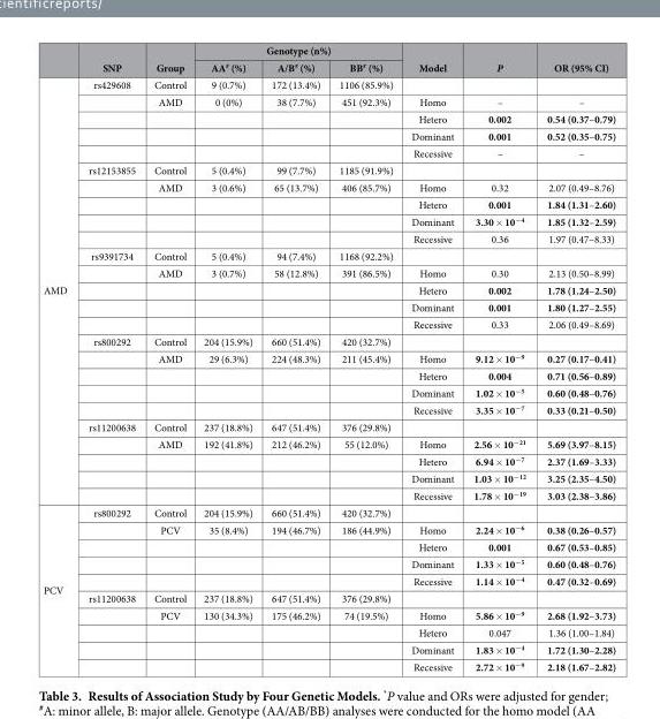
<table><thead><tr><td rowspan="2"></td><td rowspan="2">SNP</td><td rowspan="2">Group</td><td colspan="3">Genotype (n%)</td><td rowspan="2">Model</td><td rowspan="2">P</td><td rowspan="2">OR (95% CI)</td></tr><tr><td>AA# (%)</td><td>A/B# (%)</td><td>BB# (%)</td></tr></thead><tbody><tr><td rowspan="25">AMD</td><td>rs429608</td><td>Control</td><td>9 (0.7%)</td><td>172 (13.4%)</td><td>1106 (85.9%)</td><td></td><td></td><td></td></tr><tr><td></td><td>AMD</td><td>0 (0%)</td><td>38 (7.7%)</td><td>451 (92.3%)</td><td>Homo</td><td>–</td><td>–</td></tr><tr><td></td><td></td><td></td><td></td><td></td><td>Hetero</td><td>0.002</td><td>0.54 (0.37–0.79)</td></tr><tr><td></td><td></td><td></td><td></td><td></td><td>Dominant</td><td>0.001</td><td>0.52 (0.35–0.75)</td></tr><tr><td></td><td></td><td></td><td></td><td></td><td>Recessive</td><td>–</td><td>–</td></tr><tr><td>rs12153855</td><td>Control</td><td>5 (0.4%)</td><td>99 (7.7%)</td><td>1185 (91.9%)</td><td></td><td></td><td></td></tr><tr><td></td><td>AMD</td><td>3 (0.6%)</td><td>65 (13.7%)</td><td>406 (85.7%)</td><td>Homo</td><td>0.32</td><td>2.07 (0.49–8.76)</td></tr><tr><td></td><td></td><td></td><td></td><td></td><td>Hetero</td><td>0.001</td><td>1.84 (1.31–2.60)</td></tr><tr><td></td><td></td><td></td><td></td><td></td><td>Dominant</td><td>3.30 × 10<sup>−4</sup></td><td>1.85 (1.32–2.59)</td></tr><tr><td></td><td></td><td></td><td></td><td></td><td>Recessive</td><td>0.36</td><td>1.97 (0.47–8.33)</td></tr><tr><td>rs9391734</td><td>Control</td><td>5 (0.4%)</td><td>94 (7.4%)</td><td>1168 (92.2%)</td><td></td><td></td><td></td></tr><tr><td></td><td>AMD</td><td>3 (0.7%)</td><td>58 (12.8%)</td><td>391 (86.5%)</td><td>Homo</td><td>0.30</td><td>2.13 (0.50–8.99)</td></tr><tr><td></td><td></td><td></td><td></td><td></td><td>Hetero</td><td>0.002</td><td>1.78 (1.24–2.50)</td></tr><tr><td></td><td></td><td></td><td></td><td></td><td>Dominant</td><td>0.001</td><td>1.80 (1.27–2.55)</td></tr><tr><td></td><td></td><td></td><td></td><td></td><td>Recessive</td><td>0.33</td><td>2.06 (0.49–8.69)</td></tr><tr><td>rs800292</td><td>Control</td><td>204 (15.9%)</td><td>660 (51.4%)</td><td>420 (32.7%)</td><td></td><td></td><td></td></tr><tr><td></td><td>AMD</td><td>29 (6.3%)</td><td>224 (48.3%)</td><td>211 (45.4%)</td><td>Homo</td><td>9.12 × 10<sup>−9</sup></td><td>0.27 (0.17–0.41)</td></tr><tr><td></td><td></td><td></td><td></td><td></td><td>Hetero</td><td>0.004</td><td>0.71 (0.56–0.89)</td></tr><tr><td></td><td></td><td></td><td></td><td></td><td>Dominant</td><td>1.02 × 10<sup>−5</sup></td><td>0.60 (0.48–0.76)</td></tr><tr><td></td><td></td><td></td><td></td><td></td><td>Recessive</td><td>3.35 × 10<sup>−7</sup></td><td>0.33 (0.21–0.50)</td></tr><tr><td>rs11200638</td><td>Control</td><td>237 (18.8%)</td><td>647 (51.4%)</td><td>376 (29.8%)</td><td></td><td></td><td></td></tr><tr><td></td><td>AMD</td><td>192 (41.8%)</td><td>212 (46.2%)</td><td>55 (12.0%)</td><td>Homo</td><td>2.56 × 10<sup>−21</sup></td><td>5.69 (3.97–8.15)</td></tr><tr><td></td><td></td><td></td><td></td><td></td><td>Hetero</td><td>6.94 × 10<sup>−7</sup></td><td>2.37 (1.69–3.33)</td></tr><tr><td></td><td></td><td></td><td></td><td></td><td>Dominant</td><td>1.03 × 10<sup>−12</sup></td><td>3.25 (2.35–4.50)</td></tr><tr><td></td><td></td><td></td><td></td><td></td><td>Recessive</td><td>1.78 × 10<sup>−19</sup></td><td>3.03 (2.38–3.86)</td></tr><tr><td rowspan="10">PCV</td><td>rs800292</td><td>Control</td><td>204 (15.9%)</td><td>660 (51.4%)</td><td>420 (32.7%)</td><td></td><td></td><td></td></tr><tr><td></td><td>PCV</td><td>35 (8.4%)</td><td>194 (46.7%)</td><td>186 (44.9%)</td><td>Homo</td><td>2.24 × 10<sup>−6</sup></td><td>0.38 (0.26–0.57)</td></tr><tr><td></td><td></td><td></td><td></td><td></td><td>Hetero</td><td>0.001</td><td>0.67 (0.53–0.85)</td></tr><tr><td></td><td></td><td></td><td></td><td></td><td>Dominant</td><td>1.33 × 10<sup>−5</sup></td><td>0.60 (0.48–0.76)</td></tr><tr><td></td><td></td><td></td><td></td><td></td><td>Recessive</td><td>1.14 × 10<sup>−4</sup></td><td>0.47 (0.32–0.69)</td></tr><tr><td>rs11200638</td><td>Control</td><td>237 (18.8%)</td><td>647 (51.4%)</td><td>376 (29.8%)</td><td></td><td></td><td></td></tr><tr><td></td><td>PCV</td><td>130 (34.3%)</td><td>175 (46.2%)</td><td>74 (19.5%)</td><td>Homo</td><td>5.86 × 10<sup>−9</sup></td><td>2.68 (1.92–3.73)</td></tr><tr><td></td><td></td><td></td><td></td><td></td><td>Hetero</td><td>0.047</td><td>1.36 (1.00–1.84)</td></tr><tr><td></td><td></td><td></td><td></td><td></td><td>Dominant</td><td>1.83 × 10<sup>−4</sup></td><td>1.72 (1.30–2.28)</td></tr><tr><td></td><td></td><td></td><td></td><td></td><td>Recessive</td><td>2.72 × 10<sup>−9</sup></td><td>2.18 (1.67–2.82)</td></tr></tbody></table>